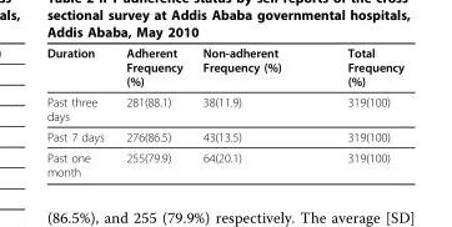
<table><thead><tr><td>Duration</td><td>Adherent Frequency (%)</td><td>Non-adherent Frequency (%)</td><td>Total Frequency (%)</td></tr></thead><tbody><tr><td>Past three days</td><td>281(88.1)</td><td>38(11.9)</td><td>319(100)</td></tr><tr><td>Past 7 days</td><td>276(86.5)</td><td>43(13.5)</td><td>319(100)</td></tr><tr><td>Past one month</td><td>255(79.9)</td><td>64(20.1)</td><td>319(100)</td></tr></tbody></table>